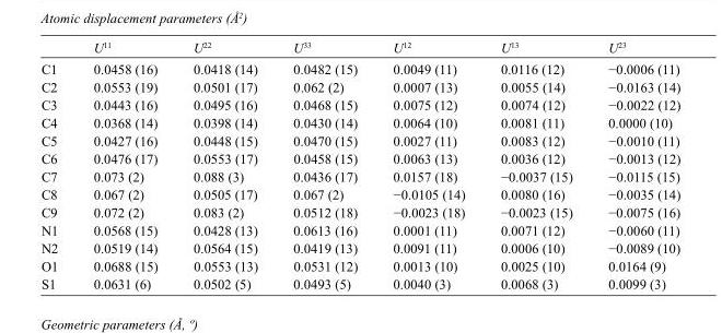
<table><thead><tr><td></td><td>U<sup>11</sup></td><td>U<sup>22</sup></td><td>U<sup>33</sup></td><td>U<sup>12</sup></td><td>U<sup>13</sup></td><td>U<sup>23</sup></td></tr></thead><tbody><tr><td>C1</td><td>0.0458 (16)</td><td>0.0418 (14)</td><td>0.0482 (15)</td><td>0.0049 (11)</td><td>0.0116 (12)</td><td>−0.0006 (11)</td></tr><tr><td>C2</td><td>0.0553 (19)</td><td>0.0501 (17)</td><td>0.062 (2)</td><td>0.0007 (13)</td><td>0.0055 (14)</td><td>−0.0163 (14)</td></tr><tr><td>C3</td><td>0.0443 (16)</td><td>0.0495 (16)</td><td>0.0468 (15)</td><td>0.0075 (12)</td><td>0.0074 (12)</td><td>−0.0022 (12)</td></tr><tr><td>C4</td><td>0.0368 (14)</td><td>0.0398 (14)</td><td>0.0430 (14)</td><td>0.0064 (10)</td><td>0.0081 (11)</td><td>0.0000 (10)</td></tr><tr><td>C5</td><td>0.0427 (16)</td><td>0.0448 (15)</td><td>0.0470 (15)</td><td>0.0027 (11)</td><td>0.0083 (12)</td><td>−0.0010 (11)</td></tr><tr><td>C6</td><td>0.0476 (17)</td><td>0.0553 (17)</td><td>0.0458 (15)</td><td>0.0063 (13)</td><td>0.0036 (12)</td><td>−0.0013 (12)</td></tr><tr><td>C7</td><td>0.073 (2)</td><td>0.088 (3)</td><td>0.0436 (17)</td><td>0.0157 (18)</td><td>−0.0037 (15)</td><td>−0.0115 (15)</td></tr><tr><td>C8</td><td>0.067 (2)</td><td>0.0505 (17)</td><td>0.067 (2)</td><td>−0.0105 (14)</td><td>0.0080 (16)</td><td>−0.0035 (14)</td></tr><tr><td>C9</td><td>0.072 (2)</td><td>0.083 (2)</td><td>0.0512 (18)</td><td>−0.0023 (18)</td><td>−0.0023 (15)</td><td>−0.0075 (16)</td></tr><tr><td>N1</td><td>0.0568 (15)</td><td>0.0428 (13)</td><td>0.0613 (16)</td><td>0.0001 (11)</td><td>0.0071 (12)</td><td>−0.0060 (11)</td></tr><tr><td>N2</td><td>0.0519 (14)</td><td>0.0564 (15)</td><td>0.0419 (13)</td><td>0.0091 (11)</td><td>0.0006 (10)</td><td>−0.0089 (10)</td></tr><tr><td>O1</td><td>0.0688 (15)</td><td>0.0553 (13)</td><td>0.0531 (12)</td><td>0.0013 (10)</td><td>0.0025 (10)</td><td>0.0164 (9)</td></tr><tr><td>S1</td><td>0.0631 (6)</td><td>0.0502 (5)</td><td>0.0493 (5)</td><td>0.0040 (3)</td><td>0.0068 (3)</td><td>0.0099 (3)</td></tr></tbody></table>